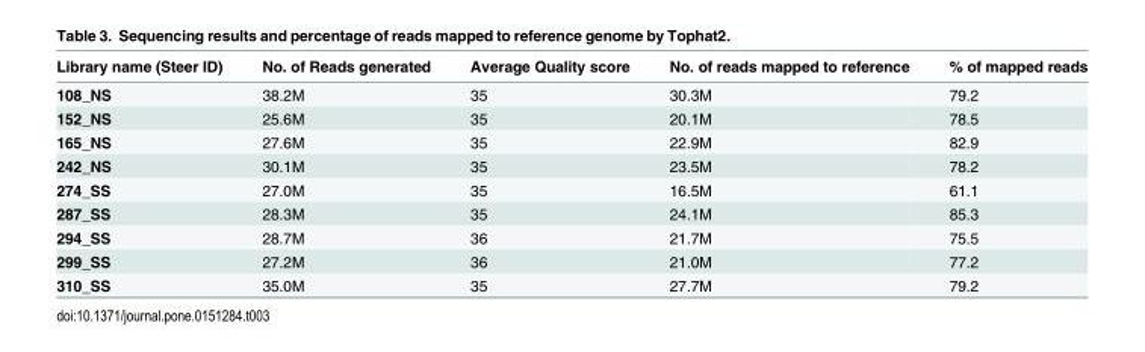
<table><thead><tr><td>Library name (Steer ID)</td><td>No. of Reads generated</td><td>Average Quality score</td><td>No. of reads mapped to reference</td><td>% of mapped reads</td></tr></thead><tbody><tr><td>108_NS</td><td>38.2M</td><td>35</td><td>30.3M</td><td>79.2</td></tr><tr><td>152_NS</td><td>25.6M</td><td>35</td><td>20.1M</td><td>78.5</td></tr><tr><td>165_NS</td><td>27.6M</td><td>35</td><td>22.9M</td><td>82.9</td></tr><tr><td>242_NS</td><td>30.1M</td><td>35</td><td>23.5M</td><td>78.2</td></tr><tr><td>274_SS</td><td>27.0M</td><td>35</td><td>16.5M</td><td>61.1</td></tr><tr><td>287_SS</td><td>28.3M</td><td>35</td><td>24.1M</td><td>85.3</td></tr><tr><td>294_SS</td><td>28.7M</td><td>36</td><td>21.7M</td><td>75.5</td></tr><tr><td>299_SS</td><td>27.2M</td><td>36</td><td>21.0M</td><td>77.2</td></tr><tr><td>310_SS</td><td>35.0M</td><td>35</td><td>27.7M</td><td>79.2</td></tr></tbody></table>